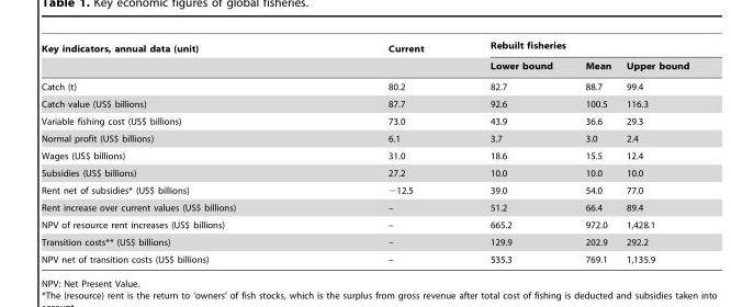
<table><thead><tr><td rowspan="2">Key indicators, annual data (unit)</td><td rowspan="2">Current</td><td colspan="3">Rebuilt fisheries</td></tr><tr><td>Lower bound</td><td>Mean</td><td>Upper bound</td></tr></thead><tbody><tr><td>Catch (t)</td><td>80.2</td><td>82.7</td><td>88.7</td><td>99.4</td></tr><tr><td>Catch value (US$ billions)</td><td>87.7</td><td>92.6</td><td>100.5</td><td>116.3</td></tr><tr><td>Variable fishing cost (US$ billions)</td><td>73.0</td><td>43.9</td><td>36.6</td><td>29.3</td></tr><tr><td>Normal profit (US$ billions)</td><td>6.1</td><td>3.7</td><td>3.0</td><td>2.4</td></tr><tr><td>Wages (US$ billions)</td><td>31.0</td><td>18.6</td><td>15.5</td><td>12.4</td></tr><tr><td>Subsidies (US$ billions)</td><td>27.2</td><td>10.0</td><td>10.0</td><td>10.0</td></tr><tr><td>Rent net of subsidies* (US$ billions)</td><td>−12.5</td><td>39.0</td><td>54.0</td><td>77.0</td></tr><tr><td>Rent increase over current values (US$ billions)</td><td>–</td><td>51.2</td><td>66.4</td><td>89.4</td></tr><tr><td>NPV of resource rent increases (US$ billions)</td><td>–</td><td>665.2</td><td>972.0</td><td>1,428.1</td></tr><tr><td>Transition costs** (US$ billions)</td><td>–</td><td>129.9</td><td>202.9</td><td>292.2</td></tr><tr><td>NPV net of transition costs (US$ billions)</td><td>–</td><td>535.3</td><td>769.1</td><td>1,135.9</td></tr></tbody></table>